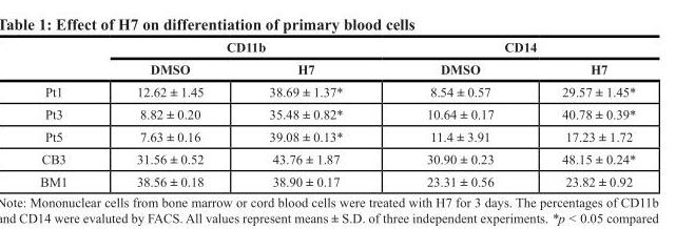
<table><thead><tr><td rowspan="2"></td><td colspan="2">CD11b</td><td colspan="2">CD14</td></tr><tr><td>DMSO</td><td>H7</td><td>DMSO</td><td>H7</td></tr></thead><tbody><tr><td>Pt1</td><td>12.62 ± 1.45</td><td>38.69 ± 1.37*</td><td>8.54 ± 0.57</td><td>29.57 ± 1.45*</td></tr><tr><td>Pt3</td><td>8.82 ± 0.20</td><td>35.48 ± 0.82*</td><td>10.64 ± 0.17</td><td>40.78 ± 0.39*</td></tr><tr><td>Pt5</td><td>7.63 ± 0.16</td><td>39.08 ± 0.13*</td><td>11.4 ± 3.91</td><td>17.23 ± 1.72</td></tr><tr><td>CB3</td><td>31.56 ± 0.52</td><td>43.76 ± 1.87</td><td>30.90 ± 0.23</td><td>48.15 ± 0.24*</td></tr><tr><td>BM1</td><td>38.56 ± 0.18</td><td>38.90 ± 0.17</td><td>23.31 ± 0.56</td><td>23.82 ± 0.92</td></tr></tbody></table>